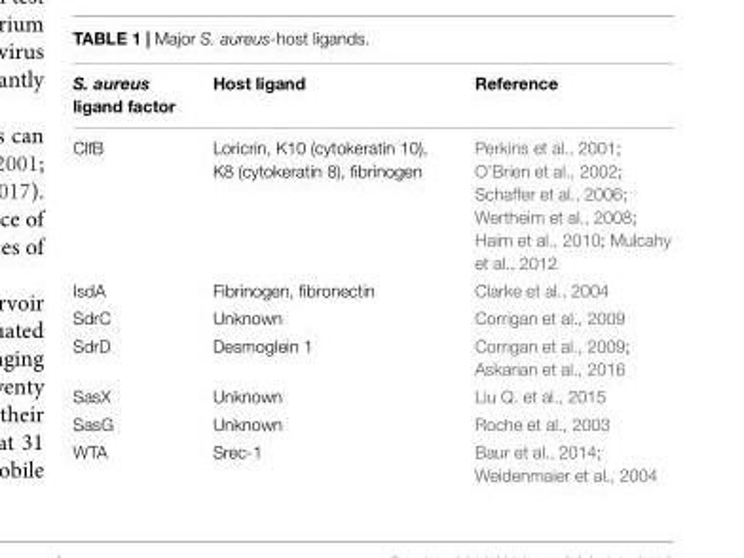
<table><thead><tr><td>S. aureus ligand factor</td><td>Host ligand</td><td>Reference</td></tr></thead><tbody><tr><td>ClfB</td><td>Loricrin, K10 (cytokeratin 10), K8 (cytokeratin 8), fibrinogen</td><td>Perkins et al., 2001; O’Brien et al., 2002; Schaffer et al., 2006; Wertheim et al., 2008; Haim et al., 2010; Mulcahy et al., 2012</td></tr><tr><td>IsdA</td><td>Fibrinogen, fibronectin</td><td>Clarke et al., 2004</td></tr><tr><td>SdrC</td><td>Unknown</td><td>Corrigan et al., 2009</td></tr><tr><td>SdrD</td><td>Desmoglein 1</td><td>Corrigan et al., 2009; Askarian et al., 2016</td></tr><tr><td>SasX</td><td>Unknown</td><td>Liu Q. et al., 2015</td></tr><tr><td>SasG</td><td>Unknown</td><td>Roche et al., 2003</td></tr><tr><td>WTA</td><td>Srec-1</td><td>Baur et al., 2014; Weidenmaier et al., 2004</td></tr></tbody></table>